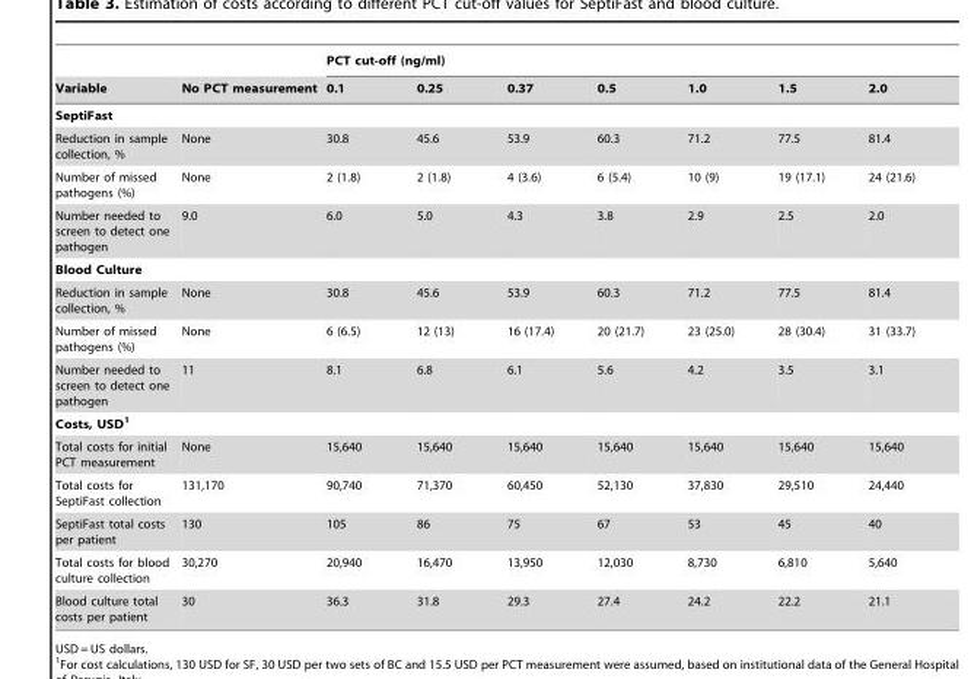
<table><thead><tr><td rowspan="2">Variable</td><td rowspan="2">No PCT measurement</td><td colspan="7">PCT cut-off (ng/ml)</td></tr><tr><td>0.1</td><td>0.25</td><td>0.37</td><td>0.5</td><td>1.0</td><td>1.5</td><td>2.0</td></tr></thead><tbody><tr><td colspan="9">SeptiFast</td></tr><tr><td>Reduction in sample collection, %</td><td>None</td><td>30.8</td><td>45.6</td><td>53.9</td><td>60.3</td><td>71.2</td><td>77.5</td><td>81.4</td></tr><tr><td>Number of missed pathogens (%)</td><td>None</td><td>2 (1.8)</td><td>2 (1.8)</td><td>4 (3.6)</td><td>6 (5.4)</td><td>10 (9)</td><td>19 (17.1)</td><td>24 (21.6)</td></tr><tr><td>Number needed to screen to detect one pathogen</td><td>9.0</td><td>6.0</td><td>5.0</td><td>4.3</td><td>3.8</td><td>2.9</td><td>2.5</td><td>2.0</td></tr><tr><td colspan="9">Blood Culture</td></tr><tr><td>Reduction in sample collection, %</td><td>None</td><td>30.8</td><td>45.6</td><td>53.9</td><td>60.3</td><td>71.2</td><td>77.5</td><td>81.4</td></tr><tr><td>Number of missed pathogens (%)</td><td>None</td><td>6 (6.5)</td><td>12 (13)</td><td>16 (17.4)</td><td>20 (21.7)</td><td>23 (25.0)</td><td>28 (30.4)</td><td>31 (33.7)</td></tr><tr><td>Number needed to screen to detect one pathogen</td><td>11</td><td>8.1</td><td>6.8</td><td>6.1</td><td>5.6</td><td>4.2</td><td>3.5</td><td>3.1</td></tr><tr><td colspan="9">Costs, USD1</td></tr><tr><td>Total costs for initial PCT measurement</td><td>None</td><td>15,640</td><td>15,640</td><td>15,640</td><td>15,640</td><td>15,640</td><td>15,640</td><td>15,640</td></tr><tr><td>Total costs for SeptiFast collection</td><td>131,170</td><td>90,740</td><td>71,370</td><td>60,450</td><td>52,130</td><td>37,830</td><td>29,510</td><td>24,440</td></tr><tr><td>SeptiFast total costs per patient</td><td>130</td><td>105</td><td>86</td><td>75</td><td>67</td><td>53</td><td>45</td><td>40</td></tr><tr><td>Total costs for blood culture collection</td><td>30,270</td><td>20,940</td><td>16,470</td><td>13,950</td><td>12,030</td><td>8,730</td><td>6,810</td><td>5,640</td></tr><tr><td>Blood culture total costs per patient</td><td>30</td><td>36.3</td><td>31.8</td><td>29.3</td><td>27.4</td><td>24.2</td><td>22.2</td><td>21.1</td></tr></tbody></table>